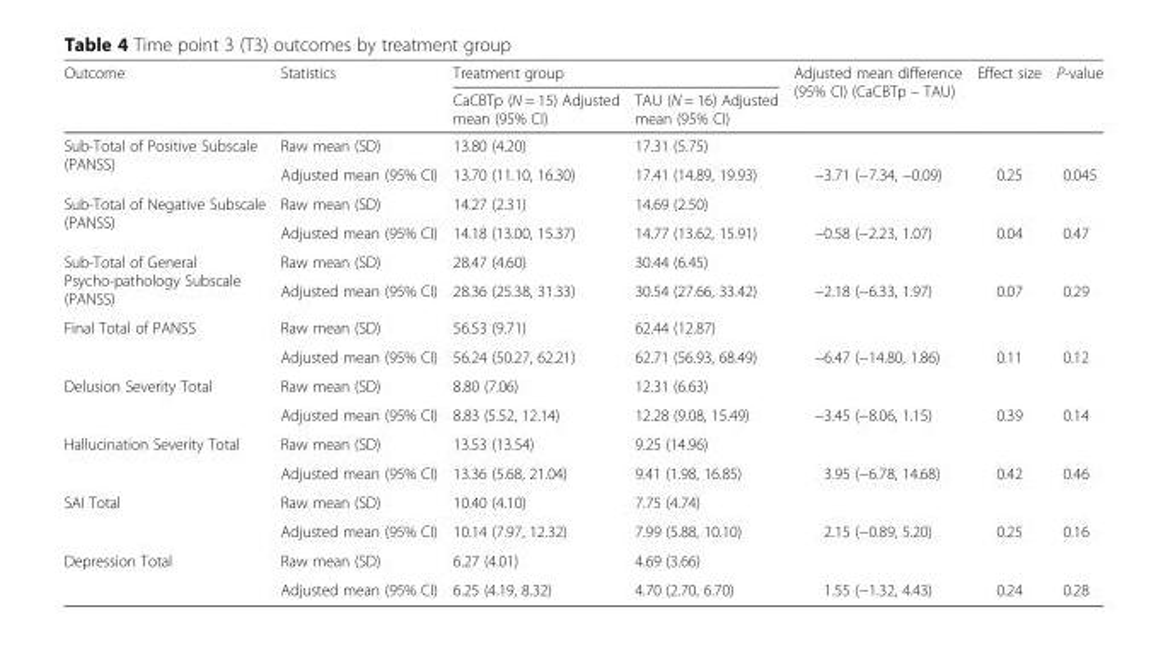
<table><thead><tr><td rowspan="2">Outcome</td><td rowspan="2">Statistics</td><td colspan="2">Treatment group</td><td rowspan="2">Adjusted mean difference (95% CI) (CaCBTp – TAU)</td><td rowspan="2">Effect size</td><td rowspan="2">P-value</td></tr><tr><td>CaCBTp (N = 15) Adjusted mean (95% CI)</td><td>TAU (N = 16) Adjusted mean (95% CI)</td></tr></thead><tbody><tr><td rowspan="2">Sub-Total of Positive Subscale (PANSS)</td><td>Raw mean (SD)</td><td>13.80 (4.20)</td><td>17.31 (5.75)</td><td></td><td></td><td></td></tr><tr><td>Adjusted mean (95% CI)</td><td>13.70 (11.10, 16.30)</td><td>17.41 (14.89, 19.93)</td><td>−3.71 (−7.34, −0.09)</td><td>0.25</td><td>0.045</td></tr><tr><td rowspan="2">Sub-Total of Negative Subscale (PANSS)</td><td>Raw mean (SD)</td><td>14.27 (2.31)</td><td>14.69 (2.50)</td><td></td><td></td><td></td></tr><tr><td>Adjusted mean (95% CI)</td><td>14.18 (13.00, 15.37)</td><td>14.77 (13.62, 15.91)</td><td>−0.58 (−2.23, 1.07)</td><td>0.04</td><td>0.47</td></tr><tr><td rowspan="2">Sub-Total of General Psycho-pathology Subscale (PANSS)</td><td>Raw mean (SD)</td><td>28.47 (4.60)</td><td>30.44 (6.45)</td><td></td><td></td><td></td></tr><tr><td>Adjusted mean (95% CI)</td><td>28.36 (25.38, 31.33)</td><td>30.54 (27.66, 33.42)</td><td>−2.18 (−6.33, 1.97)</td><td>0.07</td><td>0.29</td></tr><tr><td rowspan="2">Final Total of PANSS</td><td>Raw mean (SD)</td><td>56.53 (9.71)</td><td>62.44 (12.87)</td><td></td><td></td><td></td></tr><tr><td>Adjusted mean (95% CI)</td><td>56.24 (50.27, 62.21)</td><td>62.71 (56.93, 68.49)</td><td>−6.47 (−14.80, 1.86)</td><td>0.11</td><td>0.12</td></tr><tr><td rowspan="2">Delusion Severity Total</td><td>Raw mean (SD)</td><td>8.80 (7.06)</td><td>12.31 (6.63)</td><td></td><td></td><td></td></tr><tr><td>Adjusted mean (95% CI)</td><td>8.83 (5.52, 12.14)</td><td>12.28 (9.08, 15.49)</td><td>−3.45 (−8.06, 1.15)</td><td>0.39</td><td>0.14</td></tr><tr><td rowspan="2">Hallucination Severity Total</td><td>Raw mean (SD)</td><td>13.53 (13.54)</td><td>9.25 (14.96)</td><td></td><td></td><td></td></tr><tr><td>Adjusted mean (95% CI)</td><td>13.36 (5.68, 21.04)</td><td>9.41 (1.98, 16.85)</td><td>3.95 (−6.78, 14.68)</td><td>0.42</td><td>0.46</td></tr><tr><td rowspan="2">SAI Total</td><td>Raw mean (SD)</td><td>10.40 (4.10)</td><td>7.75 (4.74)</td><td></td><td></td><td></td></tr><tr><td>Adjusted mean (95% CI)</td><td>10.14 (7.97, 12.32)</td><td>7.99 (5.88, 10.10)</td><td>2.15 (−0.89, 5.20)</td><td>0.25</td><td>0.16</td></tr><tr><td rowspan="2">Depression Total</td><td>Raw mean (SD)</td><td>6.27 (4.01)</td><td>4.69 (3.66)</td><td></td><td></td><td></td></tr><tr><td>Adjusted mean (95% CI)</td><td>6.25 (4.19, 8.32)</td><td>4.70 (2.70, 6.70)</td><td>1.55 (−1.32, 4.43)</td><td>0.24</td><td>0.28</td></tr></tbody></table>